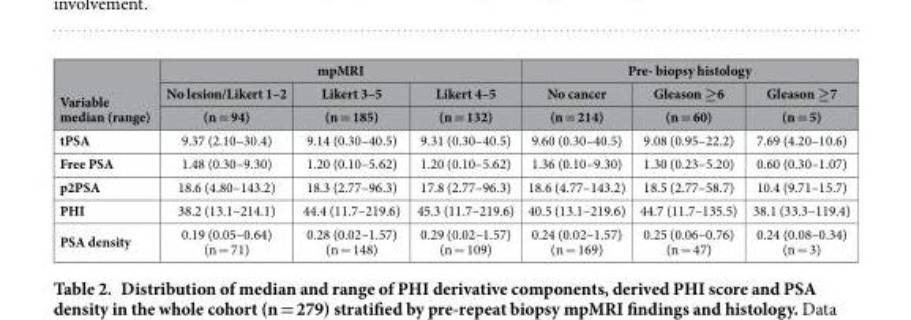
<table><thead><tr><td rowspan="3">Variable median (range)</td><td colspan="3">mpMRI</td><td colspan="3">Pre- biopsy histology</td></tr><tr><td rowspan="2">No lesion/Likert 1–2 (n = 94)</td><td rowspan="2">Likert 3–5 (n = 185)</td><td rowspan="2">Likert 4–5 (n = 132)</td><td rowspan="2">No cancer (n = 214)</td><td rowspan="2">Gleason ≥6 (n = 60)</td><td rowspan="2">Gleason ≥7 (n = 5)</td></tr><tr></tr></thead><tbody><tr><td>tPSA</td><td>9.37 (2.10–30.4)</td><td>9.14 (0.30–40.5)</td><td>9.31 (0.30–40.5)</td><td>9.60 (0.30–40.5)</td><td>9.08 (0.95–22.2)</td><td>7.69 (4.20–10.6)</td></tr><tr><td>Free PSA</td><td>1.48 (0.30–9.30)</td><td>1.20 (0.10–5.62)</td><td>1.20 (0.10–5.62)</td><td>1.36 (0.10–9.30)</td><td>1.30 (0.23–5.20)</td><td>0.60 (0.30–1.07)</td></tr><tr><td>p2PSA</td><td>18.6 (4.80–143.2)</td><td>18.3 (2.77–96.3)</td><td>17.8 (2.77–96.3)</td><td>18.6 (4.77–143.2)</td><td>18.5 (2.77–58.7)</td><td>10.4 (9.71–15.7)</td></tr><tr><td>PHI</td><td>38.2 (13.1–214.1)</td><td>44.4 (11.7–219.6)</td><td>45.3 (11.7–219.6)</td><td>40.5 (13.1–219.6)</td><td>44.7 (11.7–135.5)</td><td>38.1 (33.3–119.4)</td></tr><tr><td>PSA density</td><td>0.19 (0.05–0.64) (n = 71)</td><td>0.28 (0.02–1.57) (n = 148)</td><td>0.29 (0.02–1.57) (n = 109)</td><td>0.24 (0.02–1.57) (n = 169)</td><td>0.25 (0.06–0.76) (n = 47)</td><td>0.24 (0.08–0.34) (n = 3)</td></tr></tbody></table>